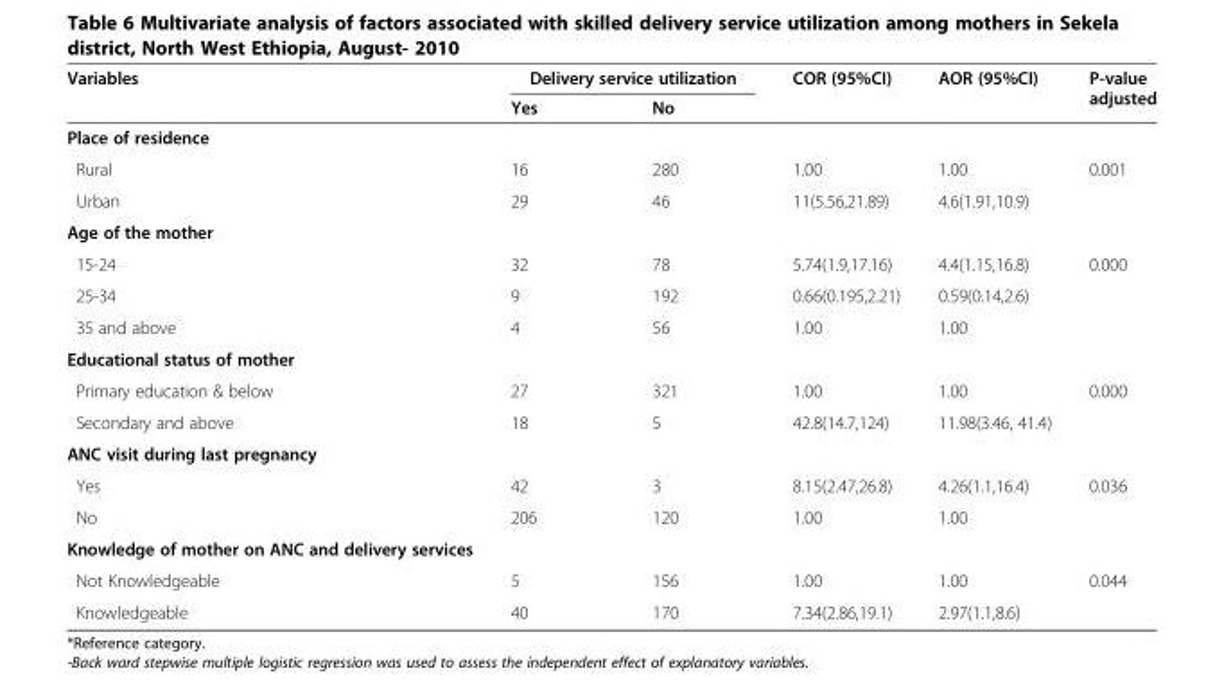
<table><thead><tr><td rowspan="2">Variables</td><td colspan="2">Delivery service utilization</td><td rowspan="2">COR (95%CI)</td><td rowspan="2">AOR (95%CI)</td><td rowspan="2">P-value adjusted</td></tr><tr><td>Yes</td><td>No</td></tr></thead><tbody><tr><td colspan="6">Place of residence</td></tr><tr><td>Rural</td><td>16</td><td>280</td><td>1.00</td><td>1.00</td><td>0.001</td></tr><tr><td>Urban</td><td>29</td><td>46</td><td>11(5.56,21.89)</td><td>4.6(1.91,10.9)</td><td></td></tr><tr><td colspan="6">Age of the mother</td></tr><tr><td>15-24</td><td>32</td><td>78</td><td>5.74(1.9,17.16)</td><td>4.4(1.15,16.8)</td><td>0.000</td></tr><tr><td>25-34</td><td>9</td><td>192</td><td>0.66(0.195,2.21)</td><td>0.59(0.14,2.6)</td><td></td></tr><tr><td>35 and above</td><td>4</td><td>56</td><td>1.00</td><td>1.00</td><td></td></tr><tr><td colspan="6">Educational status of mother</td></tr><tr><td>Primary education &amp; below</td><td>27</td><td>321</td><td>1.00</td><td>1.00</td><td>0.000</td></tr><tr><td>Secondary and above</td><td>18</td><td>5</td><td>42.8(14.7,124)</td><td>11.98(3.46, 41.4)</td><td></td></tr><tr><td colspan="6">ANC visit during last pregnancy</td></tr><tr><td>Yes</td><td>42</td><td>3</td><td>8.15(2.47,26.8)</td><td>4.26(1.1,16.4)</td><td>0.036</td></tr><tr><td>No</td><td>206</td><td>120</td><td>1.00</td><td>1.00</td><td></td></tr><tr><td colspan="6">Knowledge of mother on ANC and delivery services</td></tr><tr><td>Not Knowledgeable</td><td>5</td><td>156</td><td>1.00</td><td>1.00</td><td>0.044</td></tr><tr><td>Knowledgeable</td><td>40</td><td>170</td><td>7.34(2.86,19.1)</td><td>2.97(1.1,8.6)</td><td></td></tr></tbody></table>